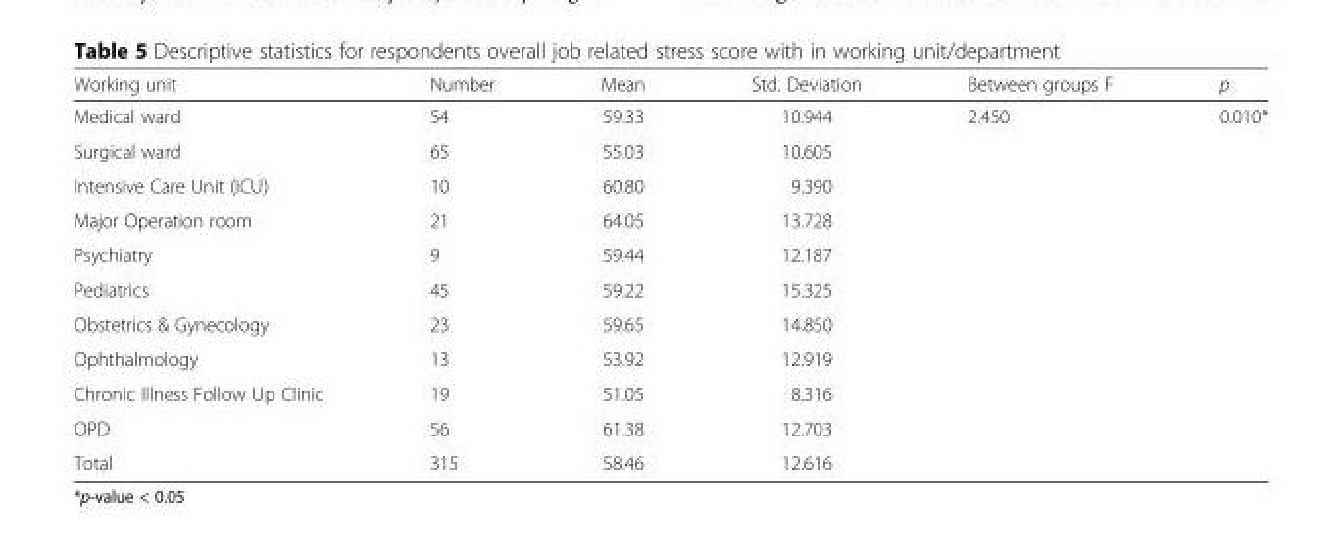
<table><thead><tr><td>Working unit</td><td>Number</td><td>Mean</td><td>Std. Deviation</td><td>Between groups F</td><td>p</td></tr></thead><tbody><tr><td>Medical ward</td><td>54</td><td>59.33</td><td>10.944</td><td>2.450</td><td>0.010*</td></tr><tr><td>Surgical ward</td><td>65</td><td>55.03</td><td>10.605</td><td></td><td></td></tr><tr><td>Intensive Care Unit (ICU)</td><td>10</td><td>60.80</td><td>9.390</td><td></td><td></td></tr><tr><td>Major Operation room</td><td>21</td><td>64.05</td><td>13.728</td><td></td><td></td></tr><tr><td>Psychiatry</td><td>9</td><td>59.44</td><td>12.187</td><td></td><td></td></tr><tr><td>Pediatrics</td><td>45</td><td>59.22</td><td>15.325</td><td></td><td></td></tr><tr><td>Obstetrics &amp; Gynecology</td><td>23</td><td>59.65</td><td>14.850</td><td></td><td></td></tr><tr><td>Ophthalmology</td><td>13</td><td>53.92</td><td>12.919</td><td></td><td></td></tr><tr><td>Chronic Illness Follow Up Clinic</td><td>19</td><td>51.05</td><td>8.316</td><td></td><td></td></tr><tr><td>OPD</td><td>56</td><td>61.38</td><td>12.703</td><td></td><td></td></tr><tr><td>Total</td><td>315</td><td>58.46</td><td>12.616</td><td></td><td></td></tr></tbody></table>